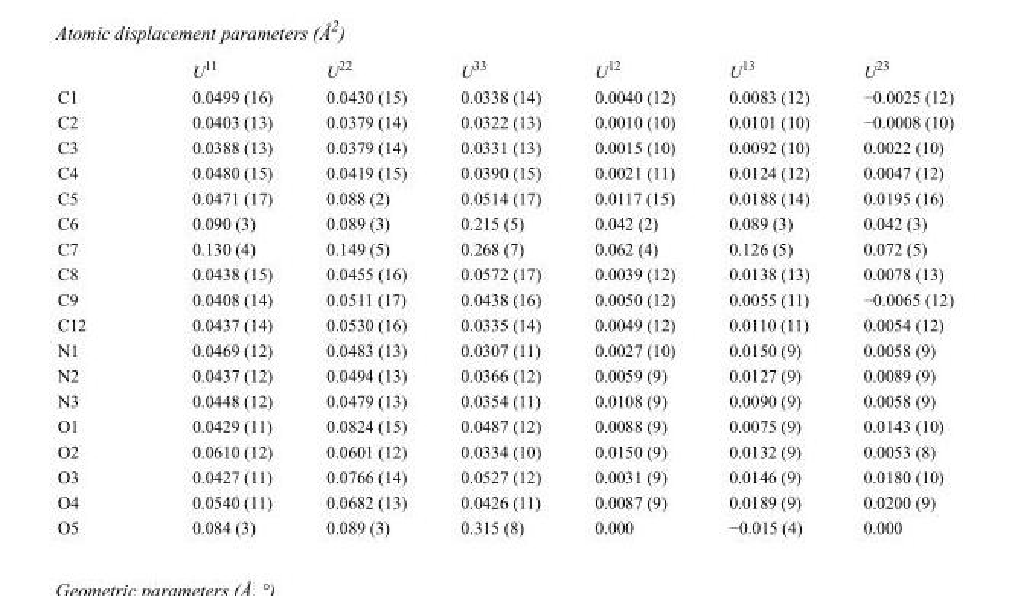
<table><thead><tr><td></td><td>U<sup>11</sup></td><td>U<sup>22</sup></td><td>U<sup>33</sup></td><td>U<sup>12</sup></td><td>U<sup>13</sup></td><td>U<sup>23</sup></td></tr></thead><tbody><tr><td>C1</td><td>0.0499 (16)</td><td>0.0430 (15)</td><td>0.0338 (14)</td><td>0.0040 (12)</td><td>0.0083 (12)</td><td>−0.0025 (12)</td></tr><tr><td>C2</td><td>0.0403 (13)</td><td>0.0379 (14)</td><td>0.0322 (13)</td><td>0.0010 (10)</td><td>0.0101 (10)</td><td>−0.0008 (10)</td></tr><tr><td>C3</td><td>0.0388 (13)</td><td>0.0379 (14)</td><td>0.0331 (13)</td><td>0.0015 (10)</td><td>0.0092 (10)</td><td>0.0022 (10)</td></tr><tr><td>C4</td><td>0.0480 (15)</td><td>0.0419 (15)</td><td>0.0390 (15)</td><td>0.0021 (11)</td><td>0.0124 (12)</td><td>0.0047 (12)</td></tr><tr><td>C5</td><td>0.0471 (17)</td><td>0.088 (2)</td><td>0.0514 (17)</td><td>0.0117 (15)</td><td>0.0188 (14)</td><td>0.0195 (16)</td></tr><tr><td>C6</td><td>0.090 (3)</td><td>0.089 (3)</td><td>0.215 (5)</td><td>0.042 (2)</td><td>0.089 (3)</td><td>0.042 (3)</td></tr><tr><td>C7</td><td>0.130 (4)</td><td>0.149 (5)</td><td>0.268 (7)</td><td>0.062 (4)</td><td>0.126 (5)</td><td>0.072 (5)</td></tr><tr><td>C8</td><td>0.0438 (15)</td><td>0.0455 (16)</td><td>0.0572 (17)</td><td>0.0039 (12)</td><td>0.0138 (13)</td><td>0.0078 (13)</td></tr><tr><td>C9</td><td>0.0408 (14)</td><td>0.0511 (17)</td><td>0.0438 (16)</td><td>0.0050 (12)</td><td>0.0055 (11)</td><td>−0.0065 (12)</td></tr><tr><td>C12</td><td>0.0437 (14)</td><td>0.0530 (16)</td><td>0.0335 (14)</td><td>0.0049 (12)</td><td>0.0110 (11)</td><td>0.0054 (12)</td></tr><tr><td>N1</td><td>0.0469 (12)</td><td>0.0483 (13)</td><td>0.0307 (11)</td><td>0.0027 (10)</td><td>0.0150 (9)</td><td>0.0058 (9)</td></tr><tr><td>N2</td><td>0.0437 (12)</td><td>0.0494 (13)</td><td>0.0366 (12)</td><td>0.0059 (9)</td><td>0.0127 (9)</td><td>0.0089 (9)</td></tr><tr><td>N3</td><td>0.0448 (12)</td><td>0.0479 (13)</td><td>0.0354 (11)</td><td>0.0108 (9)</td><td>0.0090 (9)</td><td>0.0058 (9)</td></tr><tr><td>O1</td><td>0.0429 (11)</td><td>0.0824 (15)</td><td>0.0487 (12)</td><td>0.0088 (9)</td><td>0.0075 (9)</td><td>0.0143 (10)</td></tr><tr><td>O2</td><td>0.0610 (12)</td><td>0.0601 (12)</td><td>0.0334 (10)</td><td>0.0150 (9)</td><td>0.0132 (9)</td><td>0.0053 (8)</td></tr><tr><td>O3</td><td>0.0427 (11)</td><td>0.0766 (14)</td><td>0.0527 (12)</td><td>0.0031 (9)</td><td>0.0146 (9)</td><td>0.0180 (10)</td></tr><tr><td>O4</td><td>0.0540 (11)</td><td>0.0682 (13)</td><td>0.0426 (11)</td><td>0.0087 (9)</td><td>0.0189 (9)</td><td>0.0200 (9)</td></tr><tr><td>O5</td><td>0.084 (3)</td><td>0.089 (3)</td><td>0.315 (8)</td><td>0.000</td><td>−0.015 (4)</td><td>0.000</td></tr></tbody></table>